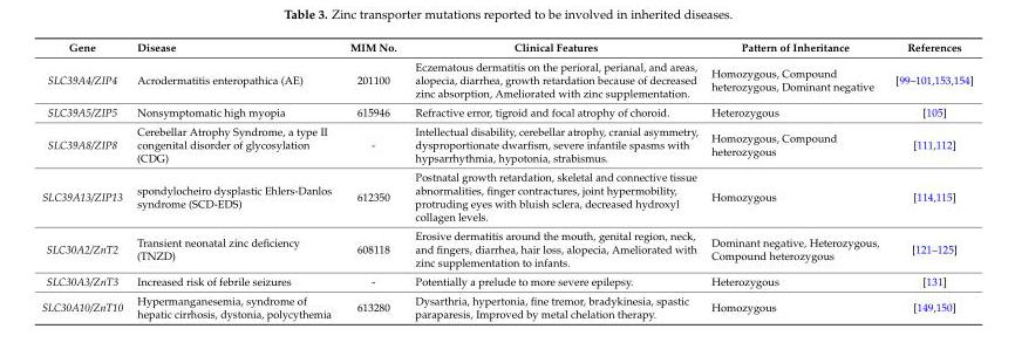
<table><thead><tr><td>Gene</td><td>Disease</td><td>MIM No.</td><td>Clinical Features</td><td>Pattern of Inheritance</td><td>References</td></tr></thead><tbody><tr><td>SLC39A4/ZIP4</td><td>Acrodermatitis enteropathica (AE)</td><td>201100</td><td>Eczematous dermatitis on the perioral, perianal, and areas, alopecia, diarrhea, growth retardation because of decreased zinc absorption, Ameliorated with zinc supplementation.</td><td>Homozygous, Compound heterozygous, Dominant negative</td><td>[99–101,153,154]</td></tr><tr><td>SLC39A5/ZIP5</td><td>Nonsymptomatic high myopia</td><td>615946</td><td>Refractive error, tigroid and focal atrophy of choroid.</td><td>Heterozygous</td><td>[105]</td></tr><tr><td>SLC39A8/ZIP8</td><td>Cerebellar Atrophy Syndrome, a type II congenital disorder of glycosylation (CDG)</td><td>-</td><td>Intellectual disability, cerebellar atrophy, cranial asymmetry, dysproportionate dwarfism, severe infantile spasms with hypsarrhythmia, hypotonia, strabismus.</td><td>Homozygous, Compound heterozygous</td><td>[111,112]</td></tr><tr><td>SLC39A13/ZIP13</td><td>spondylocheiro dysplastic Ehlers-Danlos syndrome (SCD-EDS)</td><td>612350</td><td>Postnatal growth retardation, skeletal and connective tissue abnormalities, finger contractures, joint hypermobility, protruding eyes with bluish sclera, decreased hydroxyl collagen levels.</td><td>Homozygous</td><td>[114,115]</td></tr><tr><td>SLC30A2/ZnT2</td><td>Transient neonatal zinc deficiency (TNZD)</td><td>608118</td><td>Erosive dermatitis around the mouth, genital region, neck, and fingers, diarrhea, hair loss, alopecia, Ameliorated with zinc supplementation to infants.</td><td>Dominant negative, Heterozygous, Compound heterozygous</td><td>[121–125]</td></tr><tr><td>SLC30A3/ZnT3</td><td>Increased risk of febrile seizures</td><td>-</td><td>Potentially a prelude to more severe epilepsy.</td><td>Heterozygous</td><td>[131]</td></tr><tr><td>SLC30A10/ZnT10</td><td>Hypermanganesemia, syndrome of hepatic cirrhosis, dystonia, polycythemia</td><td>613280</td><td>Dysarthria, hypertonia, fine tremor, bradykinesia, spastic paraparesis, Improved by metal chelation therapy.</td><td>Homozygous</td><td>[149,150]</td></tr></tbody></table>